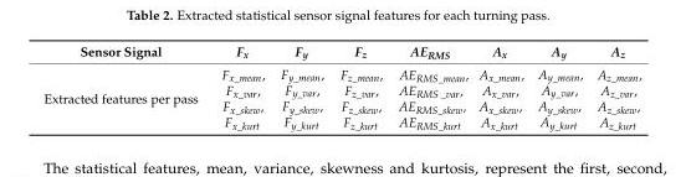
<table><thead><tr><td>Sensor Signal</td><td>F<sub>x</sub></td><td>F<sub>y</sub></td><td>F<sub>z</sub></td><td>AE<sub>RMS</sub></td><td>A<sub>x</sub></td><td>A<sub>y</sub></td><td>A<sub>z</sub></td></tr></thead><tbody><tr><td>Extracted features per pass</td><td>F<sub>x_mean</sub>, F<sub>x_var</sub>, F<sub>x_skew</sub>, F<sub>x_kurt</sub></td><td>F<sub>y_mean</sub>, F<sub>y_var</sub>, F<sub>y_skew</sub>, F<sub>y_kurt</sub></td><td>F<sub>z_mean</sub>, F<sub>z_var</sub>, F<sub>z_skew</sub>, F<sub>z_kurt</sub></td><td>AE<sub>RMS_mean</sub>, AE<sub>RMS _var</sub>, AE<sub>RMS_skew</sub>, AE<sub>RMS_kurt</sub></td><td>A<sub>x_mean</sub>, A<sub>x_var</sub>, A<sub>x_skew</sub>, A<sub>x_kurt</sub></td><td>A<sub>y_mean</sub>, A<sub>y_var</sub>, A<sub>y_skew</sub>, A<sub>y_kurt</sub></td><td>A<sub>z_mean</sub>, A<sub>z_var</sub>, A<sub>z_skew</sub>, A<sub>z_kurt</sub></td></tr></tbody></table>